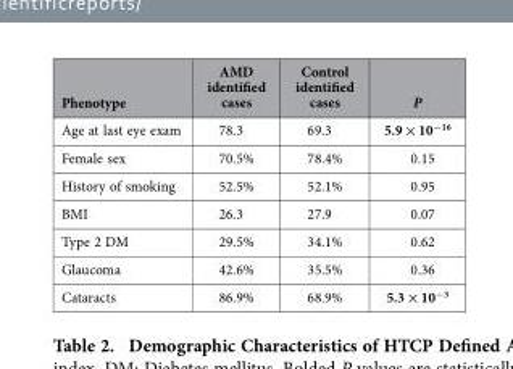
<table><thead><tr><td>Phenotype</td><td>AMD identified cases</td><td>Control identified cases</td><td>P</td></tr></thead><tbody><tr><td>Age at last eye exam</td><td>78.3</td><td>69.3</td><td>5.9 × 10<sup>−16</sup></td></tr><tr><td>Female sex</td><td>70.5%</td><td>78.4%</td><td>0.15</td></tr><tr><td>History of smoking</td><td>52.5%</td><td>52.1%</td><td>0.95</td></tr><tr><td>BMI</td><td>26.3</td><td>27.9</td><td>0.07</td></tr><tr><td>Type 2 DM</td><td>29.5%</td><td>34.1%</td><td>0.62</td></tr><tr><td>Glaucoma</td><td>42.6%</td><td>35.5%</td><td>0.36</td></tr><tr><td>Cataracts</td><td>86.9%</td><td>68.9%</td><td>5.3 × 10<sup>−3</sup></td></tr></tbody></table>